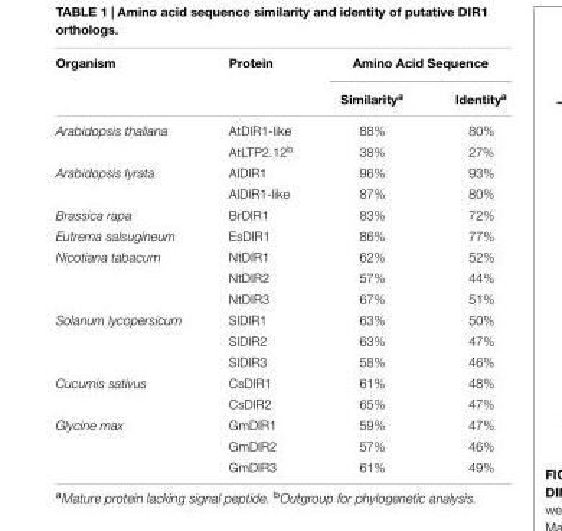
<table><thead><tr><td rowspan="2">Organism</td><td rowspan="2">Protein</td><td colspan="2">Amino Acid Sequence</td></tr><tr><td>Similarity<sup>a</sup></td><td>Identity<sup>a</sup></td></tr></thead><tbody><tr><td rowspan="2">Arabidopsis thaliana</td><td>AtDIR1-like</td><td>88%</td><td>80%</td></tr><tr><td>AtLTP2.12<sup>b</sup></td><td>38%</td><td>27%</td></tr><tr><td rowspan="2">Arabidopsis lyrata</td><td>AlDIR1</td><td>96%</td><td>93%</td></tr><tr><td>AlDIR1-like</td><td>87%</td><td>80%</td></tr><tr><td>Brassica rapa</td><td>BrDIR1</td><td>83%</td><td>72%</td></tr><tr><td>Eutrema salsugineum</td><td>EsDIR1</td><td>86%</td><td>77%</td></tr><tr><td rowspan="3">Nicotiana tabacum</td><td>NtDIR1</td><td>62%</td><td>52%</td></tr><tr><td>NtDIR2</td><td>57%</td><td>44%</td></tr><tr><td>NtDIR3</td><td>67%</td><td>51%</td></tr><tr><td rowspan="3">Solanum lycopersicum</td><td>SlDIR1</td><td>63%</td><td>50%</td></tr><tr><td>SlDIR2</td><td>63%</td><td>47%</td></tr><tr><td>SlDIR3</td><td>58%</td><td>46%</td></tr><tr><td rowspan="2">Cucumis sativus</td><td>CsDIR1</td><td>61%</td><td>48%</td></tr><tr><td>CsDIR2</td><td>65%</td><td>47%</td></tr><tr><td rowspan="3">Glycine max</td><td>GmDIR1</td><td>59%</td><td>47%</td></tr><tr><td>GmDIR2</td><td>57%</td><td>46%</td></tr><tr><td>GmDIR3</td><td>61%</td><td>49%</td></tr></tbody></table>